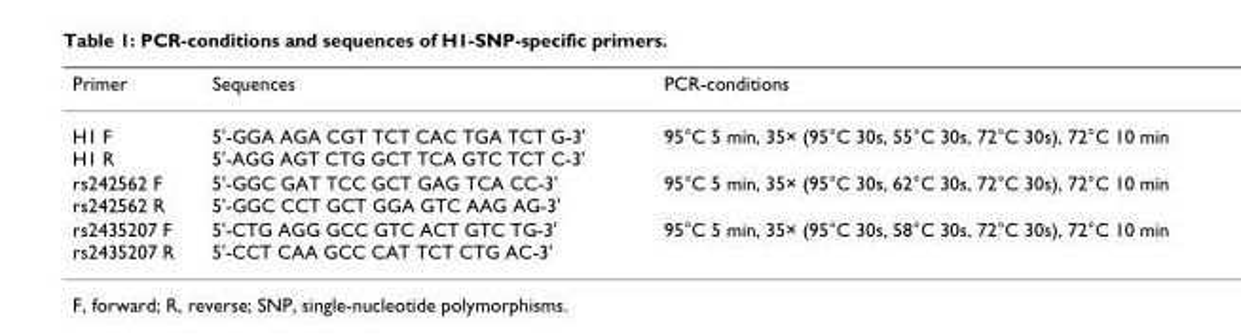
<table><thead><tr><td>Primer</td><td>Sequences</td><td>PCR-conditions</td></tr></thead><tbody><tr><td>H1 F H1 R</td><td>5&#x27;-GGA AGA CGT TCT CAC TGA TCT G-3&#x27; 5&#x27;-AGG AGT CTG GCT TCA GTC TCT C-3&#x27;</td><td>95°C 5 min, 35× (95°C 30s, 55°C 30s, 72°C 30s), 72°C 10 min</td></tr><tr><td>rs242562 F rs242562 R</td><td>5&#x27;-GGC GAT TCC GCT GAG TCA CC-3&#x27; 5&#x27;-GGC CCT GCT GGA GTC AAG AG-3&#x27;</td><td>95°C 5 min, 35× (95°C 30s, 62°C 30s, 72°C 30s), 72°C 10 min</td></tr><tr><td>rs2435207 F rs2435207 R</td><td>5&#x27;-CTG AGG GCC GTC ACT GTC TG-3&#x27; 5&#x27;-CCT CAA GCC CAT TCT CTG AC-3&#x27;</td><td>95°C 5 min, 35× (95°C 30s, 58°C 30s, 72°C 30s), 72°C 10 min</td></tr></tbody></table>